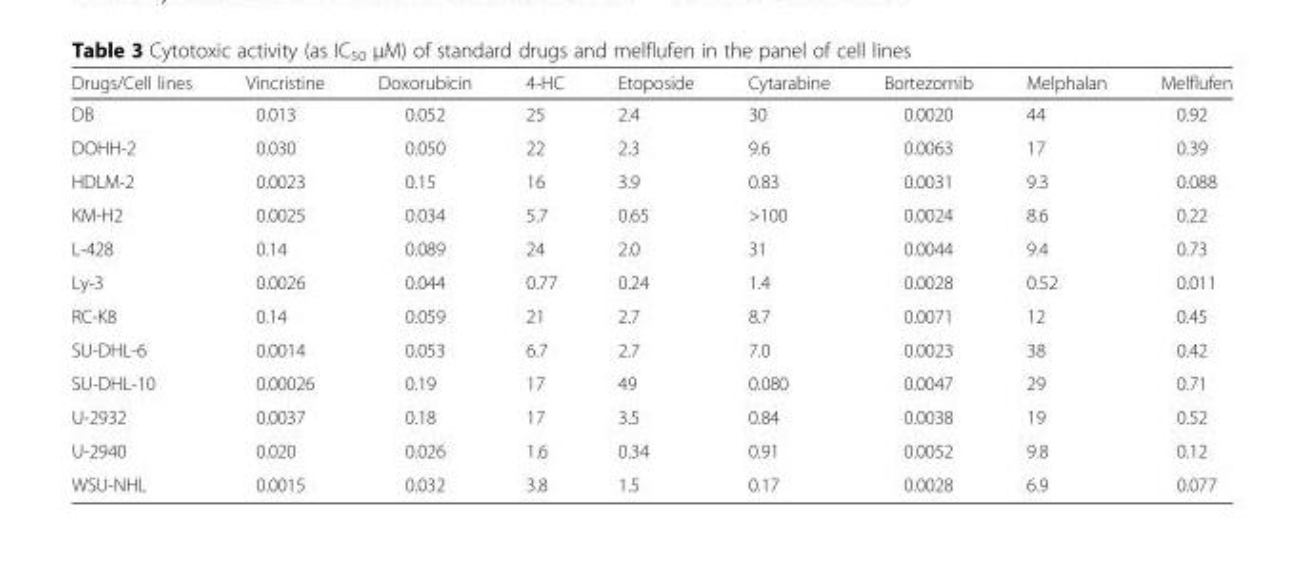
<table><thead><tr><td>Drugs/Cell lines</td><td>Vincristine</td><td>Doxorubicin</td><td>4-HC</td><td>Etoposide</td><td>Cytarabine</td><td>Bortezomib</td><td>Melphalan</td><td>Melflufen</td></tr></thead><tbody><tr><td>DB</td><td>0.013</td><td>0.052</td><td>25</td><td>2.4</td><td>30</td><td>0.0020</td><td>44</td><td>0.92</td></tr><tr><td>DOHH-2</td><td>0.030</td><td>0.050</td><td>22</td><td>2.3</td><td>9.6</td><td>0.0063</td><td>17</td><td>0.39</td></tr><tr><td>HDLM-2</td><td>0.0023</td><td>0.15</td><td>16</td><td>3.9</td><td>0.83</td><td>0.0031</td><td>9.3</td><td>0.088</td></tr><tr><td>KM-H2</td><td>0.0025</td><td>0.034</td><td>5.7</td><td>0.65</td><td>&gt;100</td><td>0.0024</td><td>8.6</td><td>0.22</td></tr><tr><td>L-428</td><td>0.14</td><td>0.089</td><td>24</td><td>2.0</td><td>31</td><td>0.0044</td><td>9.4</td><td>0.73</td></tr><tr><td>Ly-3</td><td>0.0026</td><td>0.044</td><td>0.77</td><td>0.24</td><td>1.4</td><td>0.0028</td><td>0.52</td><td>0.011</td></tr><tr><td>RC-K8</td><td>0.14</td><td>0.059</td><td>21</td><td>2.7</td><td>8.7</td><td>0.0071</td><td>12</td><td>0.45</td></tr><tr><td>SU-DHL-6</td><td>0.0014</td><td>0.053</td><td>6.7</td><td>2.7</td><td>7.0</td><td>0.0023</td><td>38</td><td>0.42</td></tr><tr><td>SU-DHL-10</td><td>0.00026</td><td>0.19</td><td>17</td><td>49</td><td>0.080</td><td>0.0047</td><td>29</td><td>0.71</td></tr><tr><td>U-2932</td><td>0.0037</td><td>0.18</td><td>17</td><td>3.5</td><td>0.84</td><td>0.0038</td><td>19</td><td>0.52</td></tr><tr><td>U-2940</td><td>0.020</td><td>0.026</td><td>1.6</td><td>0.34</td><td>0.91</td><td>0.0052</td><td>9.8</td><td>0.12</td></tr><tr><td>WSU-NHL</td><td>0.0015</td><td>0.032</td><td>3.8</td><td>1.5</td><td>0.17</td><td>0.0028</td><td>6.9</td><td>0.077</td></tr></tbody></table>